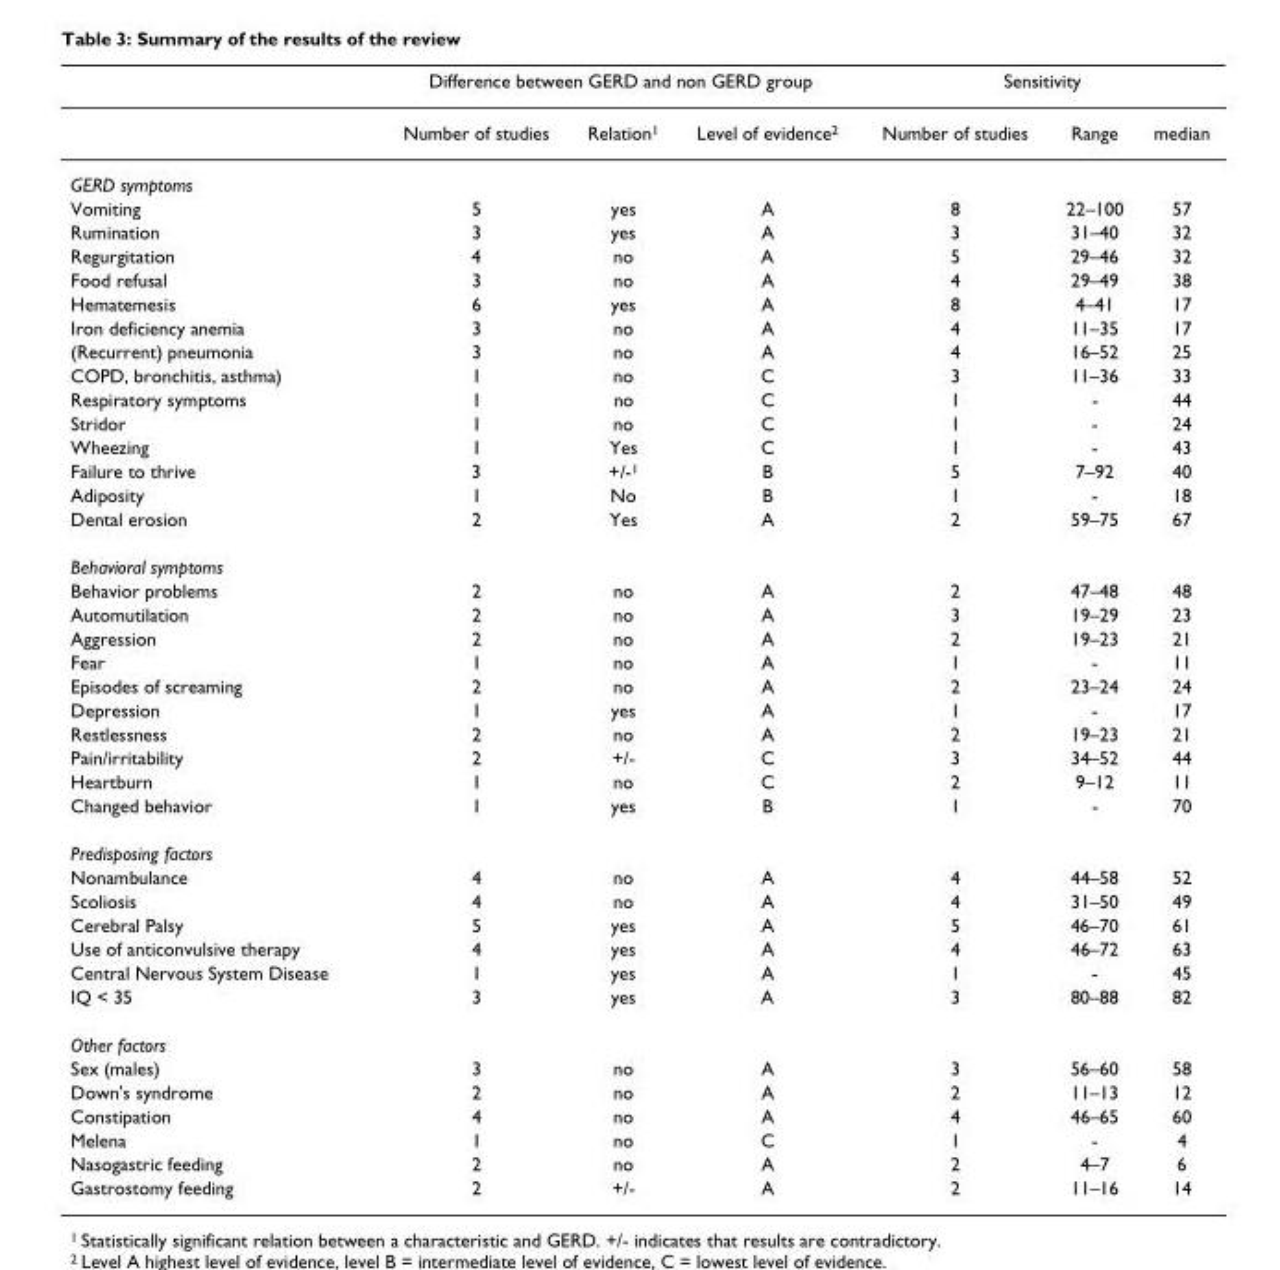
<table><thead><tr><td rowspan="2"></td><td colspan="3">Difference between GERD and non GERD group</td><td colspan="3">Sensitivity</td></tr><tr><td>Number of studies</td><td>Relation<sup>1</sup></td><td>Level of evidence<sup>2</sup></td><td>Number of studies</td><td>Range</td><td>median</td></tr></thead><tbody><tr><td colspan="7">GERD symptoms</td></tr><tr><td>Vomiting</td><td>5</td><td>yes</td><td>A</td><td>8</td><td>22–100</td><td>57</td></tr><tr><td>Rumination</td><td>3</td><td>yes</td><td>A</td><td>3</td><td>31–40</td><td>32</td></tr><tr><td>Regurgitation</td><td>4</td><td>no</td><td>A</td><td>5</td><td>29–46</td><td>32</td></tr><tr><td>Food refusal</td><td>3</td><td>no</td><td>A</td><td>4</td><td>29–49</td><td>38</td></tr><tr><td>Hematemesis</td><td>6</td><td>yes</td><td>A</td><td>8</td><td>4–41</td><td>17</td></tr><tr><td>Iron deficiency anemia</td><td>3</td><td>no</td><td>A</td><td>4</td><td>11–35</td><td>17</td></tr><tr><td>(Recurrent) pneumonia</td><td>3</td><td>no</td><td>A</td><td>4</td><td>16–52</td><td>25</td></tr><tr><td>COPD, bronchitis, asthma)</td><td>1</td><td>no</td><td>C</td><td>3</td><td>11–36</td><td>33</td></tr><tr><td>Respiratory symptoms</td><td>1</td><td>no</td><td>C</td><td>1</td><td>-</td><td>44</td></tr><tr><td>Stridor</td><td>1</td><td>no</td><td>C</td><td>1</td><td>-</td><td>24</td></tr><tr><td>Wheezing</td><td>1</td><td>Yes</td><td>C</td><td>1</td><td>-</td><td>43</td></tr><tr><td>Failure to thrive</td><td>3</td><td>+/-<sup>1</sup></td><td>B</td><td>5</td><td>7–92</td><td>40</td></tr><tr><td>Adiposity</td><td>1</td><td>No</td><td>B</td><td>1</td><td>-</td><td>18</td></tr><tr><td>Dental erosion</td><td>2</td><td>Yes</td><td>A</td><td>2</td><td>59–75</td><td>67</td></tr><tr><td colspan="7">Behavioral symptoms</td></tr><tr><td>Behavior problems</td><td>2</td><td>no</td><td>A</td><td>2</td><td>47–48</td><td>48</td></tr><tr><td>Automutilation</td><td>2</td><td>no</td><td>A</td><td>3</td><td>19–29</td><td>23</td></tr><tr><td>Aggression</td><td>2</td><td>no</td><td>A</td><td>2</td><td>19–23</td><td>21</td></tr><tr><td>Fear</td><td>1</td><td>no</td><td>A</td><td>1</td><td>-</td><td>11</td></tr><tr><td>Episodes of screaming</td><td>2</td><td>no</td><td>A</td><td>2</td><td>23–24</td><td>24</td></tr><tr><td>Depression</td><td>1</td><td>yes</td><td>A</td><td>1</td><td>-</td><td>17</td></tr><tr><td>Restlessness</td><td>2</td><td>no</td><td>A</td><td>2</td><td>19–23</td><td>21</td></tr><tr><td>Pain/irritability</td><td>2</td><td>+/-</td><td>C</td><td>3</td><td>34–52</td><td>44</td></tr><tr><td>Heartburn</td><td>1</td><td>no</td><td>C</td><td>2</td><td>9–12</td><td>11</td></tr><tr><td>Changed behavior</td><td>1</td><td>yes</td><td>B</td><td>1</td><td>-</td><td>70</td></tr><tr><td colspan="7">Predisposing factors</td></tr><tr><td>Nonambulance</td><td>4</td><td>no</td><td>A</td><td>4</td><td>44–58</td><td>52</td></tr><tr><td>Scoliosis</td><td>4</td><td>no</td><td>A</td><td>4</td><td>31–50</td><td>49</td></tr><tr><td>Cerebral Palsy</td><td>5</td><td>yes</td><td>A</td><td>5</td><td>46–70</td><td>61</td></tr><tr><td>Use of anticonvulsive therapy</td><td>4</td><td>yes</td><td>A</td><td>4</td><td>46–72</td><td>63</td></tr><tr><td>Central Nervous System Disease</td><td>1</td><td>yes</td><td>A</td><td>1</td><td>-</td><td>45</td></tr><tr><td>IQ &lt; 35</td><td>3</td><td>yes</td><td>A</td><td>3</td><td>80–88</td><td>82</td></tr><tr><td colspan="7">Other factors</td></tr><tr><td>Sex (males)</td><td>3</td><td>no</td><td>A</td><td>3</td><td>56–60</td><td>58</td></tr><tr><td>Down&#x27;s syndrome</td><td>2</td><td>no</td><td>A</td><td>2</td><td>11–13</td><td>12</td></tr><tr><td>Constipation</td><td>4</td><td>no</td><td>A</td><td>4</td><td>46–65</td><td>60</td></tr><tr><td>Melena</td><td>1</td><td>no</td><td>C</td><td>1</td><td>-</td><td>4</td></tr><tr><td>Nasogastric feeding</td><td>2</td><td>no</td><td>A</td><td>2</td><td>4–7</td><td>6</td></tr><tr><td>Gastrostomy feeding</td><td>2</td><td>+/-</td><td>A</td><td>2</td><td>11–16</td><td>14</td></tr></tbody></table>